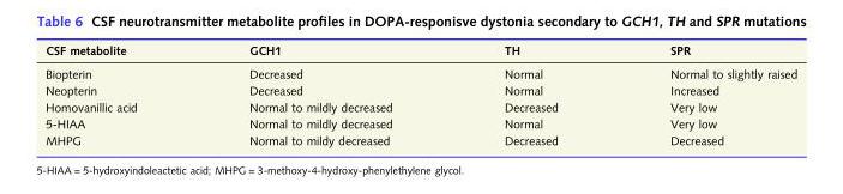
<table><thead><tr><td>CSF metabolite</td><td>GCH1</td><td>TH</td><td>SPR</td></tr></thead><tbody><tr><td>Biopterin</td><td>Decreased</td><td>Normal</td><td>Normal to slightly raised</td></tr><tr><td>Neopterin</td><td>Decreased</td><td>Normal</td><td>Increased</td></tr><tr><td>Homovanillic acid</td><td>Normal to mildly decreased</td><td>Decreased</td><td>Very low</td></tr><tr><td>5-HIAA</td><td>Normal to mildly decreased</td><td>Normal</td><td>Very low</td></tr><tr><td>MHPG</td><td>Normal to mildy decreased</td><td>Decreased</td><td>Decreased</td></tr></tbody></table>